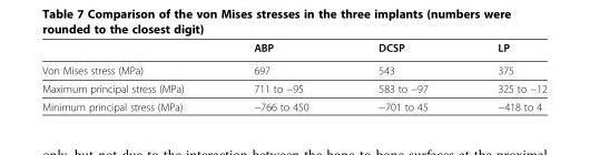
<table><thead><tr><td></td><td>ABP</td><td>DCSP</td><td>LP</td></tr></thead><tbody><tr><td>Von Mises stress (MPa)</td><td>697</td><td>543</td><td>375</td></tr><tr><td>Maximum principal stress (MPa)</td><td>711 to −95</td><td>583 to −97</td><td>325 to −12</td></tr><tr><td>Minimum principal stress (MPa)</td><td>−766 to 450</td><td>−701 to 45</td><td>−418 to 4</td></tr></tbody></table>